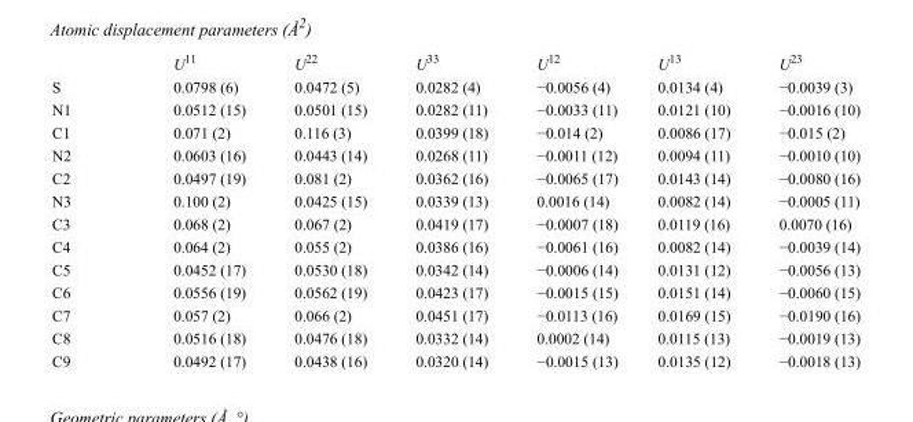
<table><thead><tr><td></td><td>U<sup>11</sup></td><td>U<sup>22</sup></td><td>U<sup>33</sup></td><td>U<sup>12</sup></td><td>U<sup>13</sup></td><td>U<sup>23</sup></td></tr></thead><tbody><tr><td>S</td><td>0.0798 (6)</td><td>0.0472 (5)</td><td>0.0282 (4)</td><td>−0.0056 (4)</td><td>0.0134 (4)</td><td>−0.0039 (3)</td></tr><tr><td>N1</td><td>0.0512 (15)</td><td>0.0501 (15)</td><td>0.0282 (11)</td><td>−0.0033 (11)</td><td>0.0121 (10)</td><td>−0.0016 (10)</td></tr><tr><td>C1</td><td>0.071 (2)</td><td>0.116 (3)</td><td>0.0399 (18)</td><td>−0.014 (2)</td><td>0.0086 (17)</td><td>−0.015 (2)</td></tr><tr><td>N2</td><td>0.0603 (16)</td><td>0.0443 (14)</td><td>0.0268 (11)</td><td>−0.0011 (12)</td><td>0.0094 (11)</td><td>−0.0010 (10)</td></tr><tr><td>C2</td><td>0.0497 (19)</td><td>0.081 (2)</td><td>0.0362 (16)</td><td>−0.0065 (17)</td><td>0.0143 (14)</td><td>−0.0080 (16)</td></tr><tr><td>N3</td><td>0.100 (2)</td><td>0.0425 (15)</td><td>0.0339 (13)</td><td>0.0016 (14)</td><td>0.0082 (14)</td><td>−0.0005 (11)</td></tr><tr><td>C3</td><td>0.068 (2)</td><td>0.067 (2)</td><td>0.0419 (17)</td><td>−0.0007 (18)</td><td>0.0119 (16)</td><td>0.0070 (16)</td></tr><tr><td>C4</td><td>0.064 (2)</td><td>0.055 (2)</td><td>0.0386 (16)</td><td>−0.0061 (16)</td><td>0.0082 (14)</td><td>−0.0039 (14)</td></tr><tr><td>C5</td><td>0.0452 (17)</td><td>0.0530 (18)</td><td>0.0342 (14)</td><td>−0.0006 (14)</td><td>0.0131 (12)</td><td>−0.0056 (13)</td></tr><tr><td>C6</td><td>0.0556 (19)</td><td>0.0562 (19)</td><td>0.0423 (17)</td><td>−0.0015 (15)</td><td>0.0151 (14)</td><td>−0.0060 (15)</td></tr><tr><td>C7</td><td>0.057 (2)</td><td>0.066 (2)</td><td>0.0451 (17)</td><td>−0.0113 (16)</td><td>0.0169 (15)</td><td>−0.0190 (16)</td></tr><tr><td>C8</td><td>0.0516 (18)</td><td>0.0476 (18)</td><td>0.0332 (14)</td><td>0.0002 (14)</td><td>0.0115 (13)</td><td>−0.0019 (13)</td></tr><tr><td>C9</td><td>0.0492 (17)</td><td>0.0438 (16)</td><td>0.0320 (14)</td><td>−0.0015 (13)</td><td>0.0135 (12)</td><td>−0.0018 (13)</td></tr></tbody></table>